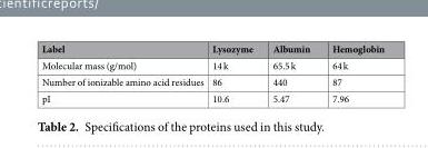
<table><thead><tr><td>Label</td><td>Lysozyme</td><td>Albumin</td><td>Hemoglobin</td></tr></thead><tbody><tr><td>Molecular mass (g/mol)</td><td>14 k</td><td>65.5 k</td><td>64 k</td></tr><tr><td>Number of ionizable amino acid residues</td><td>86</td><td>440</td><td>87</td></tr><tr><td>pI</td><td>10.6</td><td>5.47</td><td>7.96</td></tr></tbody></table>